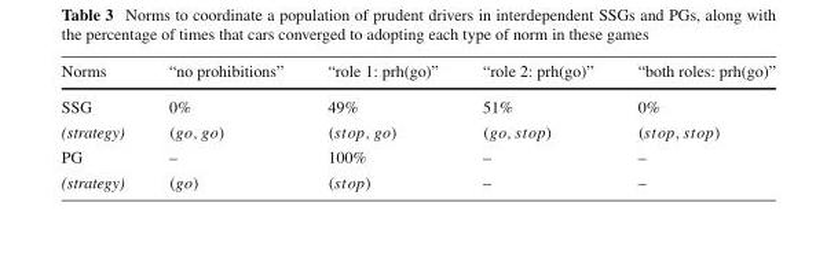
<table><thead><tr><td>Norms</td><td>“no prohibitions”</td><td>“role 1: prh(go)”</td><td>“role 2: prh(go)”</td><td>“both roles: prh(go)”</td></tr></thead><tbody><tr><td>SSG</td><td>0%</td><td>49%</td><td>51%</td><td>0%</td></tr><tr><td>(strategy)</td><td>(go, go)</td><td>(stop, go)</td><td>(go, stop)</td><td>(stop, stop)</td></tr><tr><td>PG</td><td>–</td><td>100%</td><td>–</td><td>–</td></tr><tr><td>(strategy)</td><td>(go)</td><td>(stop)</td><td>–</td><td>–</td></tr></tbody></table>